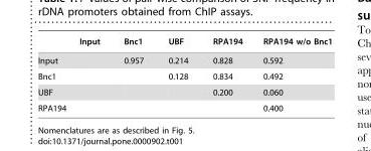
<table><thead><tr><td></td><td>Input</td><td>Bnc1</td><td>UBF</td><td>RPA194</td><td>RPA194 w/o Bnc1</td></tr></thead><tbody><tr><td>Input</td><td></td><td>0.957</td><td>0.214</td><td>0.828</td><td>0.592</td></tr><tr><td>Bnc1</td><td></td><td></td><td>0.128</td><td>0.834</td><td>0.492</td></tr><tr><td>UBF</td><td></td><td></td><td></td><td>0.200</td><td>0.060</td></tr><tr><td>RPA194</td><td></td><td></td><td></td><td></td><td>0.400</td></tr></tbody></table>